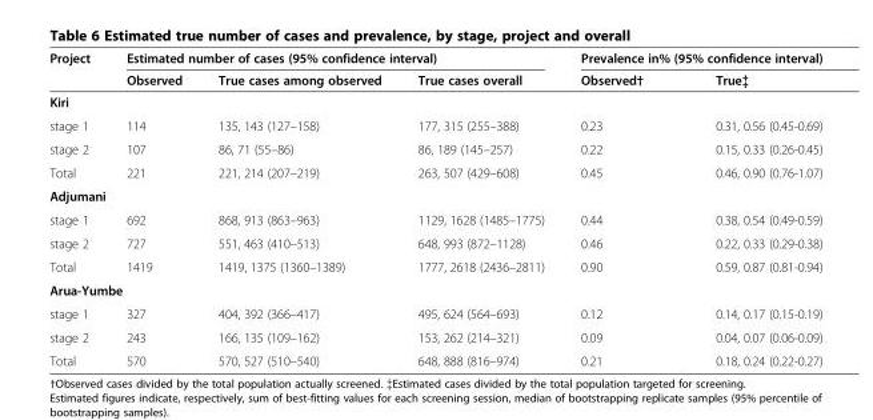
<table><thead><tr><td rowspan="2">Project</td><td colspan="3">Estimated number of cases (95% confidence interval)</td><td colspan="2">Prevalence in% (95% confidence interval)</td></tr><tr><td>Observed</td><td>True cases among observed</td><td>True cases overall</td><td>Observed†</td><td>True{{</td></tr></thead><tbody><tr><td colspan="6">Kiri</td></tr><tr><td>stage 1</td><td>114</td><td>135, 143 (127–158)</td><td>177, 315 (255–388)</td><td>0.23</td><td>0.31, 0.56 (0.45-0.69)</td></tr><tr><td>stage 2</td><td>107</td><td>86, 71 (55–86)</td><td>86, 189 (145–257)</td><td>0.22</td><td>0.15, 0.33 (0.26-0.45)</td></tr><tr><td>Total</td><td>221</td><td>221, 214 (207–219)</td><td>263, 507 (429–608)</td><td>0.45</td><td>0.46, 0.90 (0.76-1.07)</td></tr><tr><td colspan="6">Adjumani</td></tr><tr><td>stage 1</td><td>692</td><td>868, 913 (863–963)</td><td>1129, 1628 (1485–1775)</td><td>0.44</td><td>0.38, 0.54 (0.49-0.59)</td></tr><tr><td>stage 2</td><td>727</td><td>551, 463 (410–513)</td><td>648, 993 (872–1128)</td><td>0.46</td><td>0.22, 0.33 (0.29-0.38)</td></tr><tr><td>Total</td><td>1419</td><td>1419, 1375 (1360–1389)</td><td>1777, 2618 (2436–2811)</td><td>0.90</td><td>0.59, 0.87 (0.81-0.94)</td></tr><tr><td colspan="6">Arua-Yumbe</td></tr><tr><td>stage 1</td><td>327</td><td>404, 392 (366–417)</td><td>495, 624 (564–693)</td><td>0.12</td><td>0.14, 0.17 (0.15-0.19)</td></tr><tr><td>stage 2</td><td>243</td><td>166, 135 (109–162)</td><td>153, 262 (214–321)</td><td>0.09</td><td>0.04, 0.07 (0.06-0.09)</td></tr><tr><td>Total</td><td>570</td><td>570, 527 (510–540)</td><td>648, 888 (816–974)</td><td>0.21</td><td>0.18, 0.24 (0.22-0.27)</td></tr></tbody></table>